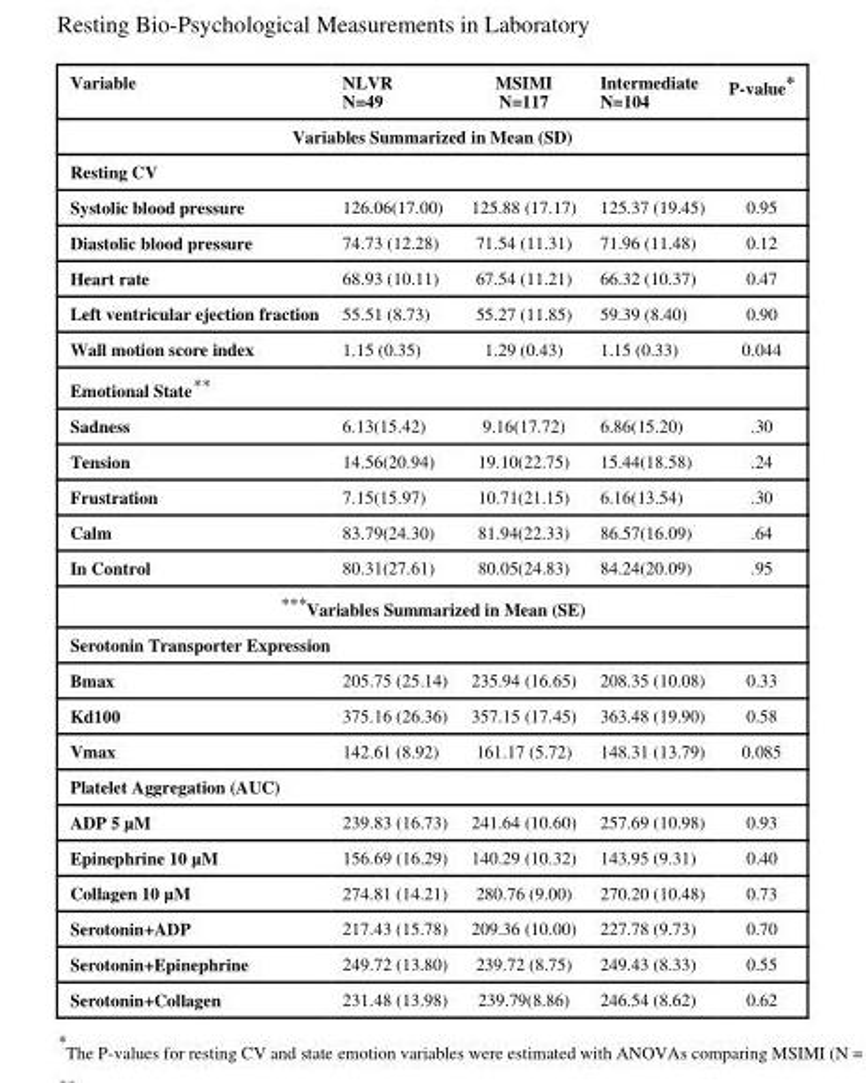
<table><thead><tr><td>Variable</td><td>NLVR N=49</td><td>MSIMI N=117</td><td>Intermediate N=104</td><td>P-value*</td></tr></thead><tbody><tr><td colspan="5">Variables Summarized in Mean (SD)</td></tr><tr><td colspan="5">Resting CV</td></tr><tr><td>Systolic blood pressure</td><td>126.06(17.00)</td><td>125.88 (17.17)</td><td>125.37 (19.45)</td><td>0.95</td></tr><tr><td>Diastolic blood pressure</td><td>74.73 (12.28)</td><td>71.54 (11.31)</td><td>71.96 (11.48)</td><td>0.12</td></tr><tr><td>Heart rate</td><td>68.93 (10.11)</td><td>67.54 (11.21)</td><td>66.32 (10.37)</td><td>0.47</td></tr><tr><td>Left ventricular ejection fraction</td><td>55.51 (8.73)</td><td>55.27 (11.85)</td><td>59.39 (8.40)</td><td>0.90</td></tr><tr><td>Wall motion score index</td><td>1.15 (0.35)</td><td>1.29 (0.43)</td><td>1.15 (0.33)</td><td>0.044</td></tr><tr><td colspan="5">Emotional State**</td></tr><tr><td>Sadness</td><td>6.13(15.42)</td><td>9.16(17.72)</td><td>6.86(15.20)</td><td>.30</td></tr><tr><td>Tension</td><td>14.56(20.94)</td><td>19.10(22.75)</td><td>15.44(18.58)</td><td>.24</td></tr><tr><td>Frustration</td><td>7.15(15.97)</td><td>10.71(21.15)</td><td>6.16(13.54)</td><td>.30</td></tr><tr><td>Calm</td><td>83.79(24.30)</td><td>81.94(22.33)</td><td>86.57(16.09)</td><td>.64</td></tr><tr><td>In Control</td><td>80.31(27.61)</td><td>80.05(24.83)</td><td>84.24(20.09)</td><td>.95</td></tr><tr><td colspan="5">***Variables Summarized in Mean (SE)</td></tr><tr><td colspan="5">Serotonin Transporter Expression</td></tr><tr><td>Bmax</td><td>205.75 (25.14)</td><td>235.94 (16.65)</td><td>208.35 (10.08)</td><td>0.33</td></tr><tr><td>Kd100</td><td>375.16 (26.36)</td><td>357.15 (17.45)</td><td>363.48 (19.90)</td><td>0.58</td></tr><tr><td>Vmax</td><td>142.61 (8.92)</td><td>161.17 (5.72)</td><td>148.31 (13.79)</td><td>0.085</td></tr><tr><td colspan="5">Platelet Aggregation (AUC)</td></tr><tr><td>ADP 5 μM</td><td>239.83 (16.73)</td><td>241.64 (10.60)</td><td>257.69 (10.98)</td><td>0.93</td></tr><tr><td>Epinephrine 10 μM</td><td>156.69 (16.29)</td><td>140.29 (10.32)</td><td>143.95 (9.31)</td><td>0.40</td></tr><tr><td>Collagen 10 μM</td><td>274.81 (14.21)</td><td>280.76 (9.00)</td><td>270.20 (10.48)</td><td>0.73</td></tr><tr><td>Serotonin+ADP</td><td>217.43 (15.78)</td><td>209.36 (10.00)</td><td>227.78 (9.73)</td><td>0.70</td></tr><tr><td>Serotonin+Epinephrine</td><td>249.72 (13.80)</td><td>239.72 (8.75)</td><td>249.43 (8.33)</td><td>0.55</td></tr><tr><td>Serotonin+Collagen</td><td>231.48 (13.98)</td><td>239.79(8.86)</td><td>246.54 (8.62)</td><td>0.62</td></tr></tbody></table>